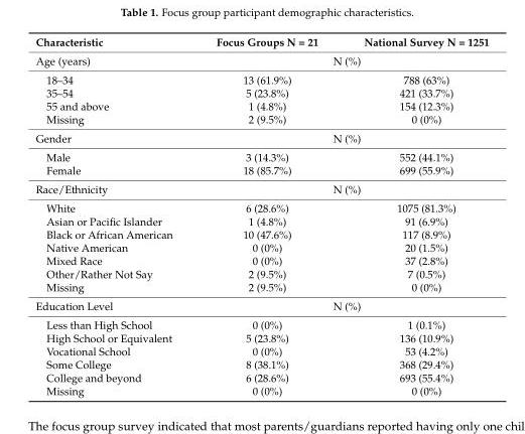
<table><thead><tr><td>Characteristic</td><td>Focus Groups N = 21</td><td>National Survey N = 1251</td></tr></thead><tbody><tr><td>Age (years)</td><td colspan="2">N (%)</td></tr><tr><td>18–34</td><td>13 (61.9%)</td><td>788 (63%)</td></tr><tr><td>35–54</td><td>5 (23.8%)</td><td>421 (33.7%)</td></tr><tr><td>55 and above</td><td>1 (4.8%)</td><td>154 (12.3%)</td></tr><tr><td>Missing</td><td>2 (9.5%)</td><td>0 (0%)</td></tr><tr><td>Gender</td><td colspan="2">N (%)</td></tr><tr><td>Male</td><td>3 (14.3%)</td><td>552 (44.1%)</td></tr><tr><td>Female</td><td>18 (85.7%)</td><td>699 (55.9%)</td></tr><tr><td>Race/Ethnicity</td><td colspan="2">N (%)</td></tr><tr><td>White</td><td>6 (28.6%)</td><td>1075 (81.3%)</td></tr><tr><td>Asian or Pacific Islander</td><td>1 (4.8%)</td><td>91 (6.9%)</td></tr><tr><td>Black or African American</td><td>10 (47.6%)</td><td>117 (8.9%)</td></tr><tr><td>Native American</td><td>0 (0%)</td><td>20 (1.5%)</td></tr><tr><td>Mixed Race</td><td>0 (0%)</td><td>37 (2.8%)</td></tr><tr><td>Other/Rather Not Say</td><td>2 (9.5%)</td><td>7 (0.5%)</td></tr><tr><td>Missing</td><td>2 (9.5%)</td><td>0 (0%)</td></tr><tr><td>Education Level</td><td colspan="2">N (%)</td></tr><tr><td>Less than High School</td><td>0 (0%)</td><td>1 (0.1%)</td></tr><tr><td>High School or Equivalent</td><td>5 (23.8%)</td><td>136 (10.9%)</td></tr><tr><td>Vocational School</td><td>0 (0%)</td><td>53 (4.2%)</td></tr><tr><td>Some College</td><td>8 (38.1%)</td><td>368 (29.4%)</td></tr><tr><td>College and beyond</td><td>6 (28.6%)</td><td>693 (55.4%)</td></tr><tr><td>Missing</td><td>0 (0%)</td><td>0 (0%)</td></tr></tbody></table>